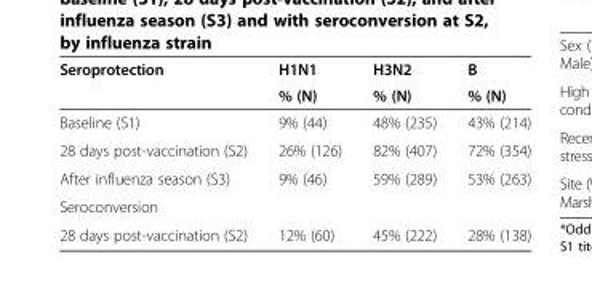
<table><thead><tr><td rowspan="2">Seroprotection</td><td rowspan="2">H1N1 % (N)</td><td rowspan="2">H3N2 % (N)</td><td rowspan="2">B % (N)</td></tr><tr></tr></thead><tbody><tr><td>Baseline (S1)</td><td>9% (44)</td><td>48% (235)</td><td>43% (214)</td></tr><tr><td>28 days post-vaccination (S2)</td><td>26% (126)</td><td>82% (407)</td><td>72% (354)</td></tr><tr><td>After influenza season (S3)</td><td>9% (46)</td><td>59% (289)</td><td>53% (263)</td></tr><tr><td colspan="4">Seroconversion</td></tr><tr><td>28 days post-vaccination (S2)</td><td>12% (60)</td><td>45% (222)</td><td>28% (138)</td></tr></tbody></table>